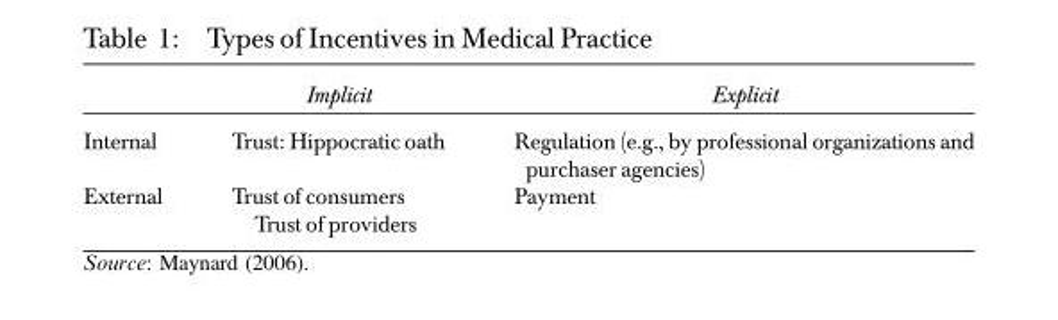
<table><thead><tr><td></td><td>Implicit</td><td>Explicit</td></tr></thead><tbody><tr><td>Internal</td><td>Trust: Hippocratic oath</td><td>Regulation (e.g., by professional organizations and purchaser agencies)</td></tr><tr><td>External</td><td>Trust of consumers Trust of providers</td><td>Payment</td></tr></tbody></table>